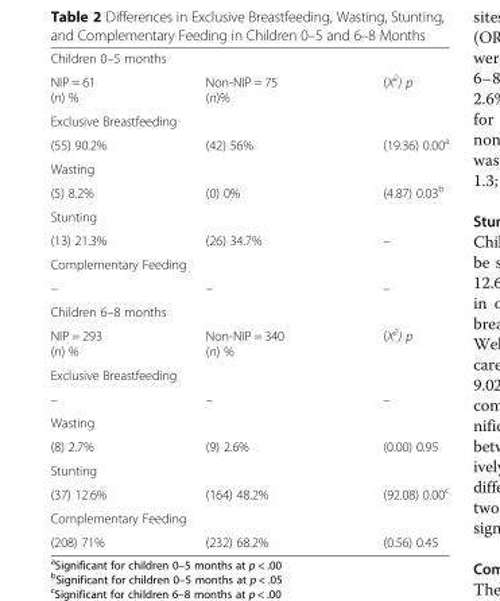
<table><tbody><tr><td colspan="3">Children 0–5 months</td></tr><tr><td>NIP = 61 (n) %</td><td>Non-NIP = 75 (n)%</td><td>(X<sup>2</sup>) p</td></tr><tr><td colspan="3">Exclusive Breastfeeding</td></tr><tr><td>(55) 90.2%</td><td>(42) 56%</td><td>(19.36) 0.00<sup>a</sup></td></tr><tr><td colspan="3">Wasting</td></tr><tr><td>(5) 8.2%</td><td>(0) 0%</td><td>(4.87) 0.03<sup>b</sup></td></tr><tr><td colspan="3">Stunting</td></tr><tr><td>(13) 21.3%</td><td>(26) 34.7%</td><td>–</td></tr><tr><td colspan="3">Complementary Feeding</td></tr><tr><td>–</td><td>–</td><td>–</td></tr><tr><td colspan="3">Children 6–8 months</td></tr><tr><td>NIP = 293 (n) %</td><td>Non-NIP = 340 (n) %</td><td>(X<sup>2</sup>) p</td></tr><tr><td colspan="3">Exclusive Breastfeeding</td></tr><tr><td>–</td><td>–</td><td>–</td></tr><tr><td colspan="3">Wasting</td></tr><tr><td>(8) 2.7%</td><td>(9) 2.6%</td><td>(0.00) 0.95</td></tr><tr><td colspan="3">Stunting</td></tr><tr><td>(37) 12.6%</td><td>(164) 48.2%</td><td>(92.08) 0.00<sup>c</sup></td></tr><tr><td colspan="3">Complementary Feeding</td></tr><tr><td>(208) 71%</td><td>(232) 68.2%</td><td>(0.56) 0.45</td></tr></tbody></table>